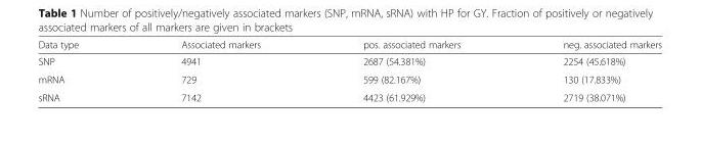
<table><thead><tr><td>Data type</td><td>Associated markers</td><td>pos. associated markers</td><td>neg. associated markers</td></tr></thead><tbody><tr><td>SNP</td><td>4941</td><td>2687 (54.381%)</td><td>2254 (45.618%)</td></tr><tr><td>mRNA</td><td>729</td><td>599 (82.167%)</td><td>130 (17.833%)</td></tr><tr><td>sRNA</td><td>7142</td><td>4423 (61.929%)</td><td>2719 (38.071%)</td></tr></tbody></table>